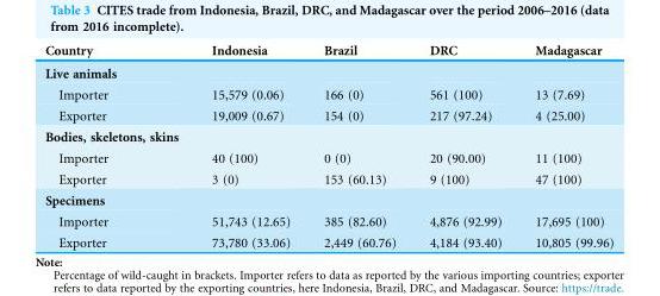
<table><thead><tr><td>Country</td><td>Indonesia</td><td>Brazil</td><td>DRC</td><td>Madagascar</td></tr></thead><tbody><tr><td colspan="5">Live animals</td></tr><tr><td>Importer</td><td>15,579 (0.06)</td><td>166 (0)</td><td>561 (100)</td><td>13 (7.69)</td></tr><tr><td>Exporter</td><td>19,009 (0.67)</td><td>154 (0)</td><td>217 (97.24)</td><td>4 (25.00)</td></tr><tr><td colspan="5">Bodies, skeletons, skins</td></tr><tr><td>Importer</td><td>40 (100)</td><td>0 (0)</td><td>20 (90.00)</td><td>11 (100)</td></tr><tr><td>Exporter</td><td>3 (0)</td><td>153 (60.13)</td><td>9 (100)</td><td>47 (100)</td></tr><tr><td colspan="5">Specimens</td></tr><tr><td>Importer</td><td>51,743 (12.65)</td><td>385 (82.60)</td><td>4,876 (92.99)</td><td>17,695 (100)</td></tr><tr><td>Exporter</td><td>73,780 (33.06)</td><td>2,449 (60.76)</td><td>4,184 (93.40)</td><td>10,805 (99.96)</td></tr></tbody></table>